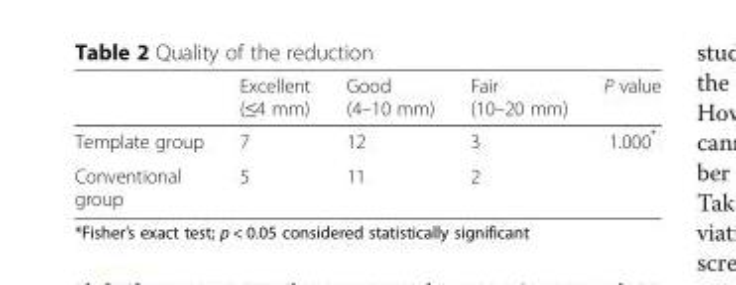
<table><thead><tr><td></td><td>Excellent (≤4 mm)</td><td>Good (4–10 mm)</td><td>Fair (10–20 mm)</td><td>P value</td></tr></thead><tbody><tr><td>Template group</td><td>7</td><td>12</td><td>3</td><td rowspan="2">1.000*</td></tr><tr><td>Conventional group</td><td>5</td><td>11</td><td>2</td></tr></tbody></table>